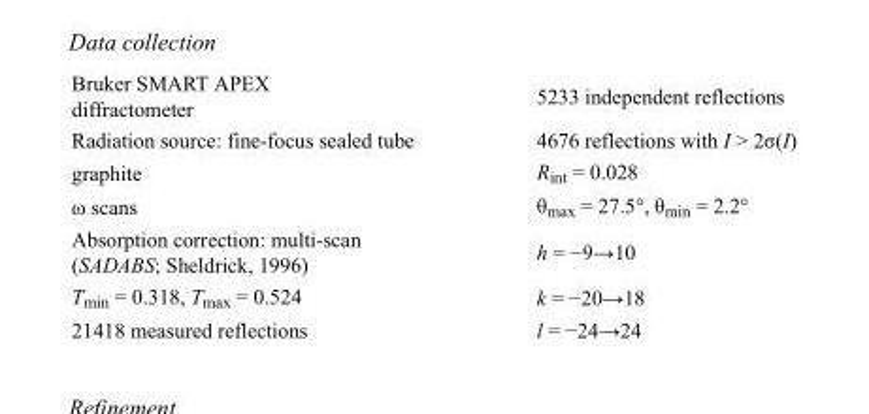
<table><tbody><tr><td>Bruker SMART APEX diffractometer</td><td>5233 independent reflections</td></tr><tr><td>Radiation source: fine-focus sealed tube</td><td>4676 reflections with I &gt; 2σ(I)</td></tr><tr><td>graphite</td><td>R<sub>int</sub> = 0.028</td></tr><tr><td>ω scans</td><td>θ<sub>max</sub> = 27.5°, θ<sub>min</sub> = 2.2°</td></tr><tr><td>Absorption correction: multi-scan (SADABS; Sheldrick, 1996)</td><td>h = −9→10</td></tr><tr><td>T<sub>min</sub> = 0.318, T<sub>max</sub> = 0.524</td><td>k = −20→18</td></tr><tr><td>21418 measured reflections</td><td>l = −24→24</td></tr></tbody></table>